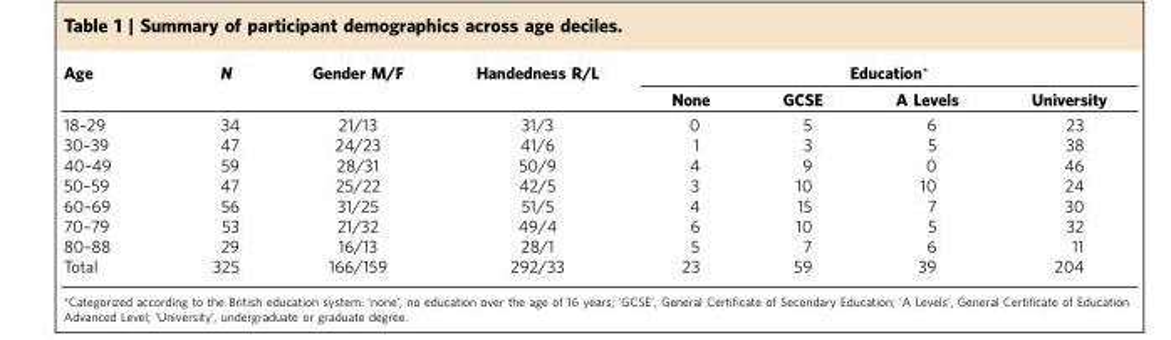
<table><thead><tr><td rowspan="2">Age</td><td rowspan="2">N</td><td rowspan="2">Gender M/F</td><td rowspan="2">Handedness R/L</td><td colspan="4">Education*</td></tr><tr><td>None</td><td>GCSE</td><td>A Levels</td><td>University</td></tr></thead><tbody><tr><td>18–29</td><td>34</td><td>21/13</td><td>31/3</td><td>0</td><td>5</td><td>6</td><td>23</td></tr><tr><td>30–39</td><td>47</td><td>24/23</td><td>41/6</td><td>1</td><td>3</td><td>5</td><td>38</td></tr><tr><td>40–49</td><td>59</td><td>28/31</td><td>50/9</td><td>4</td><td>9</td><td>0</td><td>46</td></tr><tr><td>50–59</td><td>47</td><td>25/22</td><td>42/5</td><td>3</td><td>10</td><td>10</td><td>24</td></tr><tr><td>60–69</td><td>56</td><td>31/25</td><td>51/5</td><td>4</td><td>15</td><td>7</td><td>30</td></tr><tr><td>70–79</td><td>53</td><td>21/32</td><td>49/4</td><td>6</td><td>10</td><td>5</td><td>32</td></tr><tr><td>80–88</td><td>29</td><td>16/13</td><td>28/1</td><td>5</td><td>7</td><td>6</td><td>11</td></tr><tr><td>Total</td><td>325</td><td>166/159</td><td>292/33</td><td>23</td><td>59</td><td>39</td><td>204</td></tr></tbody></table>